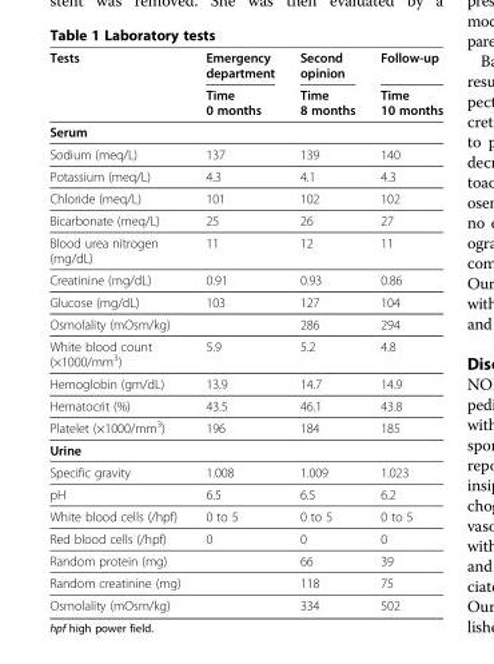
<table><thead><tr><td rowspan="2">Tests</td><td rowspan="2">Emergency department Time 0 months</td><td rowspan="2">Second opinion Time 8 months</td><td rowspan="2">Follow-up Time 10 months</td></tr><tr></tr></thead><tbody><tr><td colspan="4">Serum</td></tr><tr><td>Sodium (meq/L)</td><td>137</td><td>139</td><td>140</td></tr><tr><td>Potassium (meq/L)</td><td>4.3</td><td>4.1</td><td>4.3</td></tr><tr><td>Chloride (meq/L)</td><td>101</td><td>102</td><td>102</td></tr><tr><td>Bicarbonate (meq/L)</td><td>25</td><td>26</td><td>27</td></tr><tr><td>Blood urea nitrogen (mg/dL)</td><td>11</td><td>12</td><td>11</td></tr><tr><td>Creatinine (mg/dL)</td><td>0.91</td><td>0.93</td><td>0.86</td></tr><tr><td>Glucose (mg/dL)</td><td>103</td><td>127</td><td>104</td></tr><tr><td>Osmolality (mOsm/kg)</td><td></td><td>286</td><td>294</td></tr><tr><td>White blood count (×1000/mm<sup>3</sup>)</td><td>5.9</td><td>5.2</td><td>4.8</td></tr><tr><td>Hemoglobin (gm/dL)</td><td>13.9</td><td>14.7</td><td>14.9</td></tr><tr><td>Hematocrit (%)</td><td>43.5</td><td>46.1</td><td>43.8</td></tr><tr><td>Platelet (×1000/mm<sup>3</sup>)</td><td>196</td><td>184</td><td>185</td></tr><tr><td colspan="4">Urine</td></tr><tr><td>Specific gravity</td><td>1.008</td><td>1.009</td><td>1.023</td></tr><tr><td>pH</td><td>6.5</td><td>6.5</td><td>6.2</td></tr><tr><td>White blood cells (/hpf)</td><td>0 to 5</td><td>0 to 5</td><td>0 to 5</td></tr><tr><td>Red blood cells (/hpf)</td><td>0</td><td>0</td><td>0</td></tr><tr><td>Random protein (mg)</td><td></td><td>66</td><td>39</td></tr><tr><td>Random creatinine (mg)</td><td></td><td>118</td><td>75</td></tr><tr><td>Osmolality (mOsm/kg)</td><td></td><td>334</td><td>502</td></tr></tbody></table>